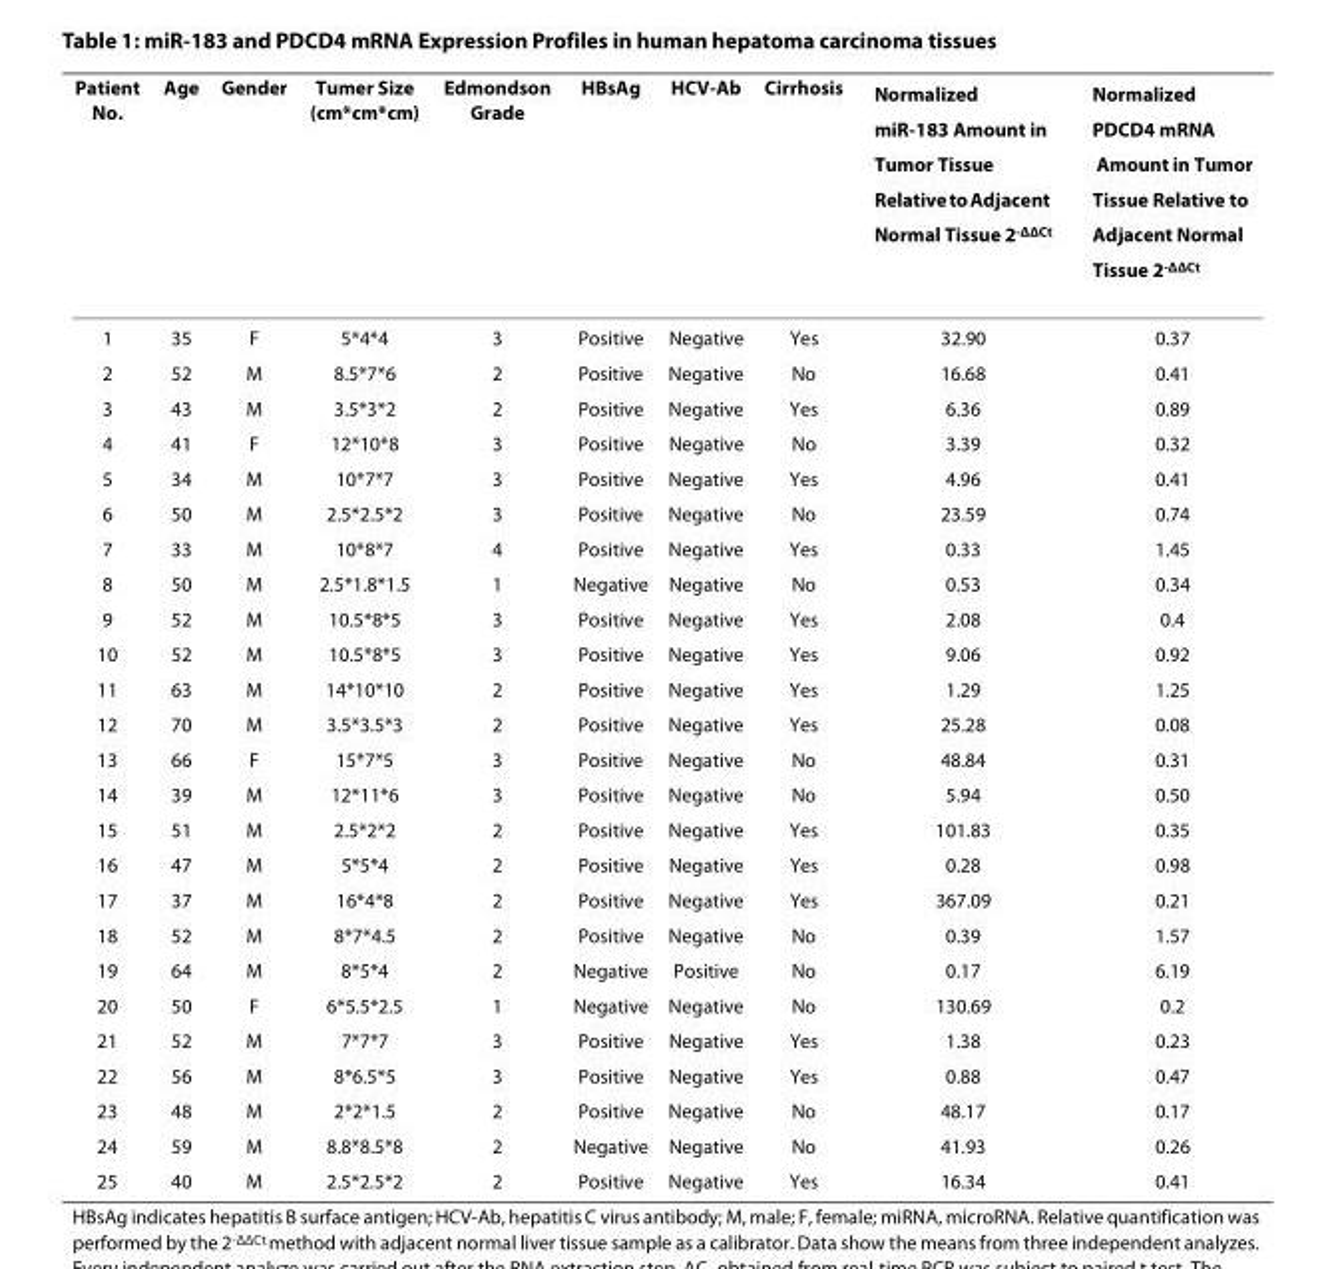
<table><thead><tr><td>Patient No.</td><td>Age</td><td>Gender</td><td>Tumer Size (cm*cm*cm)</td><td>Edmondson Grade</td><td>HBsAg</td><td>HCV-Ab</td><td>Cirrhosis</td><td>Normalized miR-183 Amount in Tumor Tissue Relative to Adjacent Normal Tissue 2<sup>-ΔΔCt</sup></td><td>Normalized PDCD4 mRNA Amount in Tumor Tissue Relative to Adjacent Normal Tissue 2<sup>-ΔΔCt</sup></td></tr></thead><tbody><tr><td>1</td><td>35</td><td>F</td><td>5*4*4</td><td>3</td><td>Positive</td><td>Negative</td><td>Yes</td><td>32.90</td><td>0.37</td></tr><tr><td>2</td><td>52</td><td>M</td><td>8.5*7*6</td><td>2</td><td>Positive</td><td>Negative</td><td>No</td><td>16.68</td><td>0.41</td></tr><tr><td>3</td><td>43</td><td>M</td><td>3.5*3*2</td><td>2</td><td>Positive</td><td>Negative</td><td>Yes</td><td>6.36</td><td>0.89</td></tr><tr><td>4</td><td>41</td><td>F</td><td>12*10*8</td><td>3</td><td>Positive</td><td>Negative</td><td>No</td><td>3.39</td><td>0.32</td></tr><tr><td>5</td><td>34</td><td>M</td><td>10*7*7</td><td>3</td><td>Positive</td><td>Negative</td><td>Yes</td><td>4.96</td><td>0.41</td></tr><tr><td>6</td><td>50</td><td>M</td><td>2.5*2.5*2</td><td>3</td><td>Positive</td><td>Negative</td><td>No</td><td>23.59</td><td>0.74</td></tr><tr><td>7</td><td>33</td><td>M</td><td>10*8*7</td><td>4</td><td>Positive</td><td>Negative</td><td>Yes</td><td>0.33</td><td>1.45</td></tr><tr><td>8</td><td>50</td><td>M</td><td>2.5*1.8*1.5</td><td>1</td><td>Negative</td><td>Negative</td><td>No</td><td>0.53</td><td>0.34</td></tr><tr><td>9</td><td>52</td><td>M</td><td>10.5*8*5</td><td>3</td><td>Positive</td><td>Negative</td><td>Yes</td><td>2.08</td><td>0.4</td></tr><tr><td>10</td><td>52</td><td>M</td><td>10.5*8*5</td><td>3</td><td>Positive</td><td>Negative</td><td>Yes</td><td>9.06</td><td>0.92</td></tr><tr><td>11</td><td>63</td><td>M</td><td>14*10*10</td><td>2</td><td>Positive</td><td>Negative</td><td>Yes</td><td>1.29</td><td>1.25</td></tr><tr><td>12</td><td>70</td><td>M</td><td>3.5*3.5*3</td><td>2</td><td>Positive</td><td>Negative</td><td>Yes</td><td>25.28</td><td>0.08</td></tr><tr><td>13</td><td>66</td><td>F</td><td>15*7*5</td><td>3</td><td>Positive</td><td>Negative</td><td>No</td><td>48.84</td><td>0.31</td></tr><tr><td>14</td><td>39</td><td>M</td><td>12*11*6</td><td>3</td><td>Positive</td><td>Negative</td><td>No</td><td>5.94</td><td>0.50</td></tr><tr><td>15</td><td>51</td><td>M</td><td>2.5*2*2</td><td>2</td><td>Positive</td><td>Negative</td><td>Yes</td><td>101.83</td><td>0.35</td></tr><tr><td>16</td><td>47</td><td>M</td><td>5*5*4</td><td>2</td><td>Positive</td><td>Negative</td><td>Yes</td><td>0.28</td><td>0.98</td></tr><tr><td>17</td><td>37</td><td>M</td><td>16*4*8</td><td>2</td><td>Positive</td><td>Negative</td><td>Yes</td><td>367.09</td><td>0.21</td></tr><tr><td>18</td><td>52</td><td>M</td><td>8*7*4.5</td><td>2</td><td>Positive</td><td>Negative</td><td>No</td><td>0.39</td><td>1.57</td></tr><tr><td>19</td><td>64</td><td>M</td><td>8*5*4</td><td>2</td><td>Negative</td><td>Positive</td><td>No</td><td>0.17</td><td>6.19</td></tr><tr><td>20</td><td>50</td><td>F</td><td>6*5.5*2.5</td><td>1</td><td>Negative</td><td>Negative</td><td>No</td><td>130.69</td><td>0.2</td></tr><tr><td>21</td><td>52</td><td>M</td><td>7*7*7</td><td>3</td><td>Positive</td><td>Negative</td><td>Yes</td><td>1.38</td><td>0.23</td></tr><tr><td>22</td><td>56</td><td>M</td><td>8*6.5*5</td><td>3</td><td>Positive</td><td>Negative</td><td>Yes</td><td>0.88</td><td>0.47</td></tr><tr><td>23</td><td>48</td><td>M</td><td>2*2*1.5</td><td>2</td><td>Positive</td><td>Negative</td><td>No</td><td>48.17</td><td>0.17</td></tr><tr><td>24</td><td>59</td><td>M</td><td>8.8*8.5*8</td><td>2</td><td>Negative</td><td>Negative</td><td>No</td><td>41.93</td><td>0.26</td></tr><tr><td>25</td><td>40</td><td>M</td><td>2.5*2.5*2</td><td>2</td><td>Positive</td><td>Negative</td><td>Yes</td><td>16.34</td><td>0.41</td></tr></tbody></table>